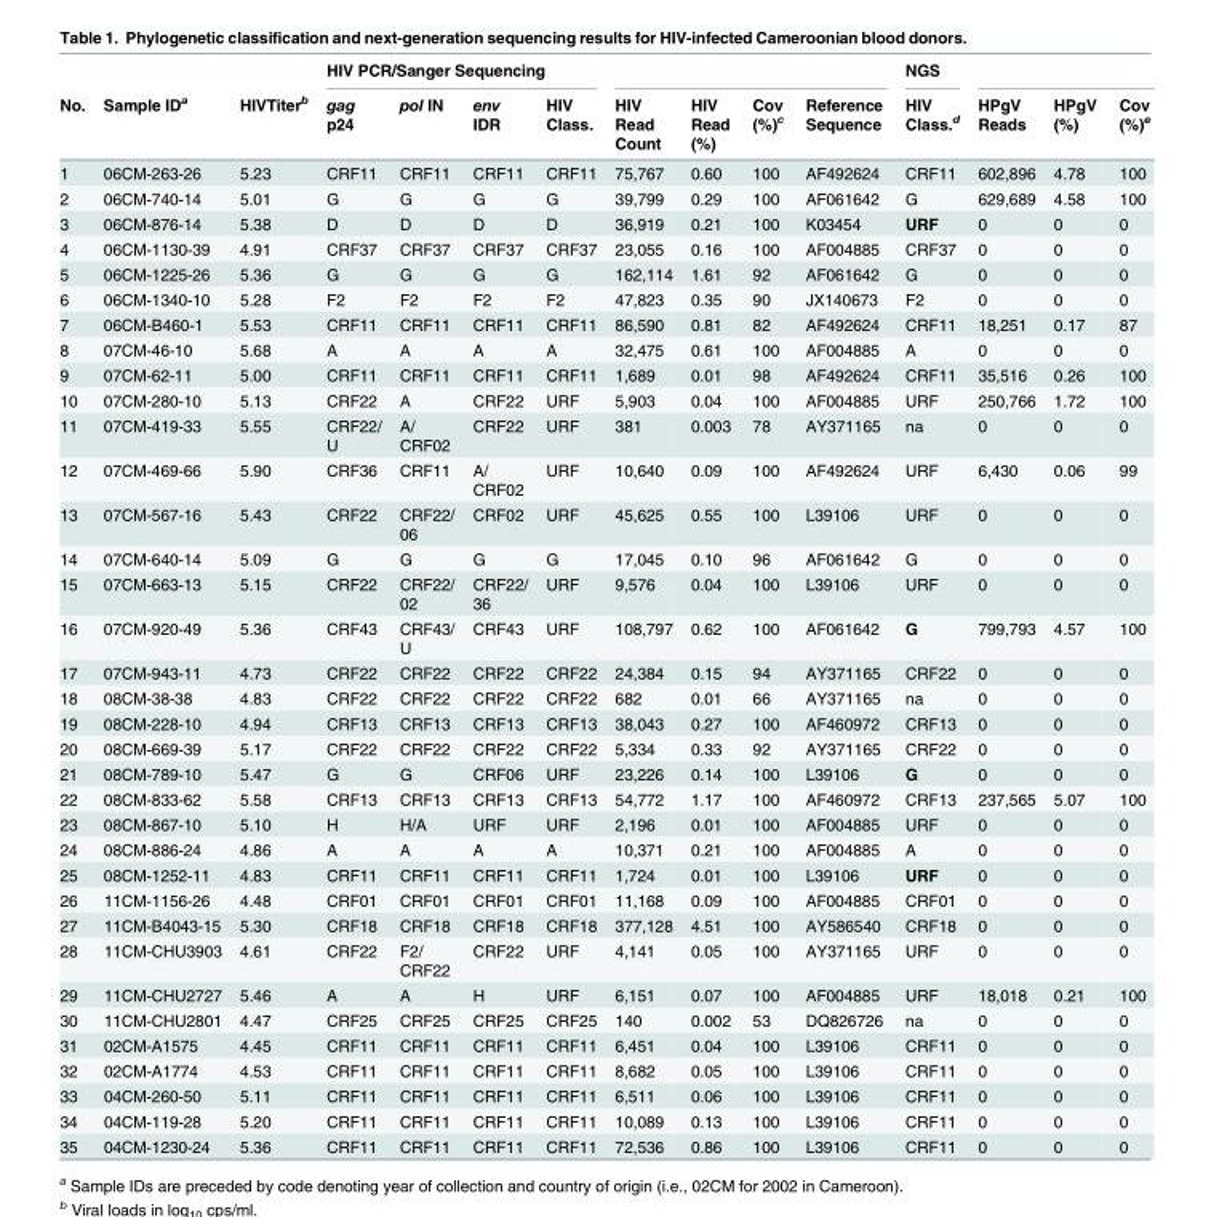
<table><thead><tr><td rowspan="2">No.</td><td rowspan="2">Sample ID<sup>a</sup></td><td rowspan="2">HIVTiter<sup>b</sup></td><td colspan="4">HIV PCR/Sanger Sequencing</td><td rowspan="2">HIV Read Count</td><td rowspan="2">HIV Read (%)</td><td rowspan="2">Cov (%)<sup>c</sup></td><td rowspan="2">Reference Sequence</td><td rowspan="2">NGS HIV Class.<sup>d</sup></td><td rowspan="2">HPgV Reads</td><td rowspan="2">HPgV (%)</td><td rowspan="2">Cov (%)<sup>e</sup></td></tr><tr><td>gag p24</td><td>pol IN</td><td>env IDR</td><td>HIV Class.</td></tr></thead><tbody><tr><td>1</td><td>06CM-263-26</td><td>5.23</td><td>CRF11</td><td>CRF11</td><td>CRF11</td><td>CRF11</td><td>75,767</td><td>0.60</td><td>100</td><td>AF492624</td><td>CRF11</td><td>602,896</td><td>4.78</td><td>100</td></tr><tr><td>2</td><td>06CM-740-14</td><td>5.01</td><td>G</td><td>G</td><td>G</td><td>G</td><td>39,799</td><td>0.29</td><td>100</td><td>AF061642</td><td>G</td><td>629,689</td><td>4.58</td><td>100</td></tr><tr><td>3</td><td>06CM-876-14</td><td>5.38</td><td>D</td><td>D</td><td>D</td><td>D</td><td>36,919</td><td>0.21</td><td>100</td><td>K03454</td><td>URF</td><td>0</td><td>0</td><td>0</td></tr><tr><td>4</td><td>06CM-1130-39</td><td>4.91</td><td>CRF37</td><td>CRF37</td><td>CRF37</td><td>CRF37</td><td>23,055</td><td>0.16</td><td>100</td><td>AF004885</td><td>CRF37</td><td>0</td><td>0</td><td>0</td></tr><tr><td>5</td><td>06CM-1225-26</td><td>5.36</td><td>G</td><td>G</td><td>G</td><td>G</td><td>162,114</td><td>1.61</td><td>92</td><td>AF061642</td><td>G</td><td>0</td><td>0</td><td>0</td></tr><tr><td>6</td><td>06CM-1340-10</td><td>5.28</td><td>F2</td><td>F2</td><td>F2</td><td>F2</td><td>47,823</td><td>0.35</td><td>90</td><td>JX140673</td><td>F2</td><td>0</td><td>0</td><td>0</td></tr><tr><td>7</td><td>06CM-B460-1</td><td>5.53</td><td>CRF11</td><td>CRF11</td><td>CRF11</td><td>CRF11</td><td>86,590</td><td>0.81</td><td>82</td><td>AF492624</td><td>CRF11</td><td>18,251</td><td>0.17</td><td>87</td></tr><tr><td>8</td><td>07CM-46-10</td><td>5.68</td><td>A</td><td>A</td><td>A</td><td>A</td><td>32,475</td><td>0.61</td><td>100</td><td>AF004885</td><td>A</td><td>0</td><td>0</td><td>0</td></tr><tr><td>9</td><td>07CM-62-11</td><td>5.00</td><td>CRF11</td><td>CRF11</td><td>CRF11</td><td>CRF11</td><td>1,689</td><td>0.01</td><td>98</td><td>AF492624</td><td>CRF11</td><td>35,516</td><td>0.26</td><td>100</td></tr><tr><td>10</td><td>07CM-280-10</td><td>5.13</td><td>CRF22</td><td>A</td><td>CRF22</td><td>URF</td><td>5,903</td><td>0.04</td><td>100</td><td>AF004885</td><td>URF</td><td>250,766</td><td>1.72</td><td>100</td></tr><tr><td>11</td><td>07CM-419-33</td><td>5.55</td><td>CRF22/ U</td><td>A/ CRF02</td><td>CRF22</td><td>URF</td><td>381</td><td>0.003</td><td>78</td><td>AY371165</td><td>na</td><td>0</td><td>0</td><td>0</td></tr><tr><td>12</td><td>07CM-469-66</td><td>5.90</td><td>CRF36</td><td>CRF11</td><td>A/ CRF02</td><td>URF</td><td>10,640</td><td>0.09</td><td>100</td><td>AF492624</td><td>URF</td><td>6,430</td><td>0.06</td><td>99</td></tr><tr><td>13</td><td>07CM-567-16</td><td>5.43</td><td>CRF22</td><td>CRF22/ 06</td><td>CRF02</td><td>URF</td><td>45,625</td><td>0.55</td><td>100</td><td>L39106</td><td>URF</td><td>0</td><td>0</td><td>0</td></tr><tr><td>14</td><td>07CM-640-14</td><td>5.09</td><td>G</td><td>G</td><td>G</td><td>G</td><td>17,045</td><td>0.10</td><td>96</td><td>AF061642</td><td>G</td><td>0</td><td>0</td><td>0</td></tr><tr><td>15</td><td>07CM-663-13</td><td>5.15</td><td>CRF22</td><td>CRF22/ 02</td><td>CRF22/ 36</td><td>URF</td><td>9,576</td><td>0.04</td><td>100</td><td>L39106</td><td>URF</td><td>0</td><td>0</td><td>0</td></tr><tr><td>16</td><td>07CM-920-49</td><td>5.36</td><td>CRF43</td><td>CRF43/ U</td><td>CRF43</td><td>URF</td><td>108,797</td><td>0.62</td><td>100</td><td>AF061642</td><td>G</td><td>799,793</td><td>4.57</td><td>100</td></tr><tr><td>17</td><td>07CM-943-11</td><td>4.73</td><td>CRF22</td><td>CRF22</td><td>CRF22</td><td>CRF22</td><td>24,384</td><td>0.15</td><td>94</td><td>AY371165</td><td>CRF22</td><td>0</td><td>0</td><td>0</td></tr><tr><td>18</td><td>08CM-38-38</td><td>4.83</td><td>CRF22</td><td>CRF22</td><td>CRF22</td><td>CRF22</td><td>682</td><td>0.01</td><td>66</td><td>AY371165</td><td>na</td><td>0</td><td>0</td><td>0</td></tr><tr><td>19</td><td>08CM-228-10</td><td>4.94</td><td>CRF13</td><td>CRF13</td><td>CRF13</td><td>CRF13</td><td>38,043</td><td>0.27</td><td>100</td><td>AF460972</td><td>CRF13</td><td>0</td><td>0</td><td>0</td></tr><tr><td>20</td><td>08CM-669-39</td><td>5.17</td><td>CRF22</td><td>CRF22</td><td>CRF22</td><td>CRF22</td><td>5,334</td><td>0.33</td><td>92</td><td>AY371165</td><td>CRF22</td><td>0</td><td>0</td><td>0</td></tr><tr><td>21</td><td>08CM-789-10</td><td>5.47</td><td>G</td><td>G</td><td>CRF06</td><td>URF</td><td>23,226</td><td>0.14</td><td>100</td><td>L39106</td><td>G</td><td>0</td><td>0</td><td>0</td></tr><tr><td>22</td><td>08CM-833-62</td><td>5.58</td><td>CRF13</td><td>CRF13</td><td>CRF13</td><td>CRF13</td><td>54,772</td><td>1.17</td><td>100</td><td>AF460972</td><td>CRF13</td><td>237,565</td><td>5.07</td><td>100</td></tr><tr><td>23</td><td>08CM-867-10</td><td>5.10</td><td>H</td><td>H/A</td><td>URF</td><td>URF</td><td>2,196</td><td>0.01</td><td>100</td><td>AF004885</td><td>URF</td><td>0</td><td>0</td><td>0</td></tr><tr><td>24</td><td>08CM-886-24</td><td>4.86</td><td>A</td><td>A</td><td>A</td><td>A</td><td>10,371</td><td>0.21</td><td>100</td><td>AF004885</td><td>A</td><td>0</td><td>0</td><td>0</td></tr><tr><td>25</td><td>08CM-1252-11</td><td>4.83</td><td>CRF11</td><td>CRF11</td><td>CRF11</td><td>CRF11</td><td>1,724</td><td>0.01</td><td>100</td><td>L39106</td><td>URF</td><td>0</td><td>0</td><td>0</td></tr><tr><td>26</td><td>11CM-1156-26</td><td>4.48</td><td>CRF01</td><td>CRF01</td><td>CRF01</td><td>CRF01</td><td>11,168</td><td>0.09</td><td>100</td><td>AF004885</td><td>CRF01</td><td>0</td><td>0</td><td>0</td></tr><tr><td>27</td><td>11CM-B4043-15</td><td>5.30</td><td>CRF18</td><td>CRF18</td><td>CRF18</td><td>CRF18</td><td>377,128</td><td>4.51</td><td>100</td><td>AY586540</td><td>CRF18</td><td>0</td><td>0</td><td>0</td></tr><tr><td>28</td><td>11CM-CHU3903</td><td>4.61</td><td>CRF22</td><td>F2/ CRF22</td><td>CRF22</td><td>URF</td><td>4,141</td><td>0.05</td><td>100</td><td>AY371165</td><td>URF</td><td>0</td><td>0</td><td>0</td></tr><tr><td>29</td><td>11CM-CHU2727</td><td>5.46</td><td>A</td><td>A</td><td>H</td><td>URF</td><td>6,151</td><td>0.07</td><td>100</td><td>AF004885</td><td>URF</td><td>18,018</td><td>0.21</td><td>100</td></tr><tr><td>30</td><td>11CM-CHU2801</td><td>4.47</td><td>CRF25</td><td>CRF25</td><td>CRF25</td><td>CRF25</td><td>140</td><td>0.002</td><td>53</td><td>DQ826726</td><td>na</td><td>0</td><td>0</td><td>0</td></tr><tr><td>31</td><td>02CM-A1575</td><td>4.45</td><td>CRF11</td><td>CRF11</td><td>CRF11</td><td>CRF11</td><td>6,451</td><td>0.04</td><td>100</td><td>L39106</td><td>CRF11</td><td>0</td><td>0</td><td>0</td></tr><tr><td>32</td><td>02CM-A1774</td><td>4.53</td><td>CRF11</td><td>CRF11</td><td>CRF11</td><td>CRF11</td><td>8,682</td><td>0.05</td><td>100</td><td>L39106</td><td>CRF11</td><td>0</td><td>0</td><td>0</td></tr><tr><td>33</td><td>04CM-260-50</td><td>5.11</td><td>CRF11</td><td>CRF11</td><td>CRF11</td><td>CRF11</td><td>6,511</td><td>0.06</td><td>100</td><td>L39106</td><td>CRF11</td><td>0</td><td>0</td><td>0</td></tr><tr><td>34</td><td>04CM-119-28</td><td>5.20</td><td>CRF11</td><td>CRF11</td><td>CRF11</td><td>CRF11</td><td>10,089</td><td>0.13</td><td>100</td><td>L39106</td><td>CRF11</td><td>0</td><td>0</td><td>0</td></tr><tr><td>35</td><td>04CM-1230-24</td><td>5.36</td><td>CRF11</td><td>CRF11</td><td>CRF11</td><td>CRF11</td><td>72,536</td><td>0.86</td><td>100</td><td>L39106</td><td>CRF11</td><td>0</td><td>0</td><td>0</td></tr></tbody></table>